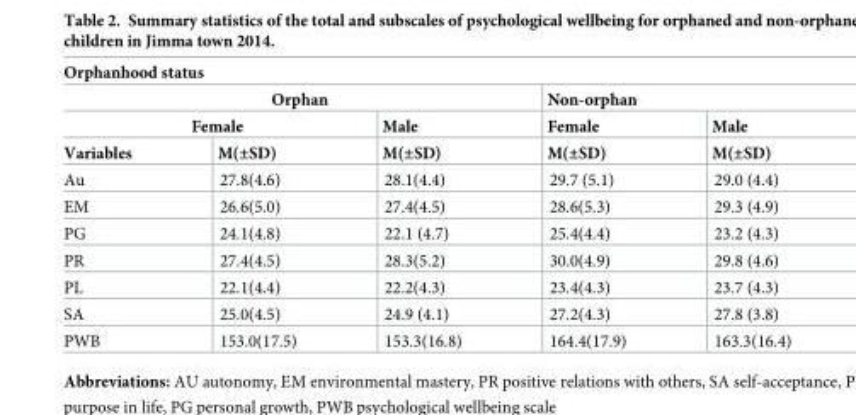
<table><thead><tr><td colspan="5">Orphanhood status</td></tr><tr><td colspan="3">Orphan</td><td colspan="2">Non-orphan</td></tr><tr><td colspan="2">Female</td><td rowspan="2">Male M(±SD)</td><td rowspan="2">Female M(±SD)</td><td rowspan="2">Male M(±SD)</td></tr><tr><td>Variables</td><td>M(±SD)</td></tr></thead><tbody><tr><td>Au</td><td>27.8(4.6)</td><td>28.1(4.4)</td><td>29.7 (5.1)</td><td>29.0 (4.4)</td></tr><tr><td>EM</td><td>26.6(5.0)</td><td>27.4(4.5)</td><td>28.6(5.3)</td><td>29.3 (4.9)</td></tr><tr><td>PG</td><td>24.1(4.8)</td><td>22.1 (4.7)</td><td>25.4(4.4)</td><td>23.2 (4.3)</td></tr><tr><td>PR</td><td>27.4(4.5)</td><td>28.3(5.2)</td><td>30.0(4.9)</td><td>29.8 (4.6)</td></tr><tr><td>PL</td><td>22.1(4.4)</td><td>22.2(4.3)</td><td>23.4(4.3)</td><td>23.7 (4.3)</td></tr><tr><td>SA</td><td>25.0(4.5)</td><td>24.9 (4.1)</td><td>27.2(4.3)</td><td>27.8 (3.8)</td></tr><tr><td>PWB</td><td>153.0(17.5)</td><td>153.3(16.8)</td><td>164.4(17.9)</td><td>163.3(16.4)</td></tr></tbody></table>